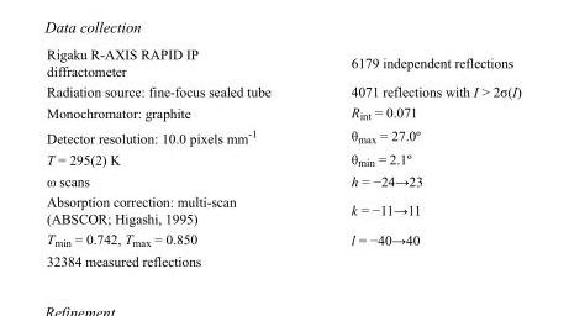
<table><tbody><tr><td>Rigaku R-AXIS RAPID IP diffractometer</td><td>6179 independent reflections</td></tr><tr><td>Radiation source: fine-focus sealed tube</td><td>4071 reflections with I &gt; 2σ(I)</td></tr><tr><td>Monochromator: graphite</td><td>R<sub>int</sub> = 0.071</td></tr><tr><td>Detector resolution: 10.0 pixels mm<sup>-1</sup></td><td>θ<sub>max</sub> = 27.0º</td></tr><tr><td>T = 295(2) K</td><td>θ<sub>min</sub> = 2.1º</td></tr><tr><td>ω scans</td><td>h = −24→23</td></tr><tr><td>Absorption correction: multi-scan (ABSCOR; Higashi, 1995)</td><td>k = −11→11</td></tr><tr><td>T<sub>min</sub> = 0.742, T<sub>max</sub> = 0.850</td><td>l = −40→40</td></tr><tr><td>32384 measured reflections</td><td></td></tr></tbody></table>